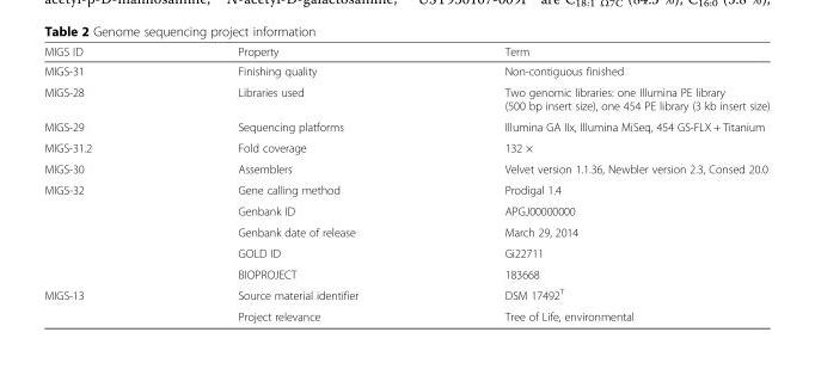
<table><thead><tr><td>MIGS ID</td><td>Property</td><td>Term</td></tr></thead><tbody><tr><td>MIGS-31</td><td>Finishing quality</td><td>Non-contiguous finished</td></tr><tr><td>MIGS-28</td><td>Libraries used</td><td>Two genomic libraries: one Illumina PE library (500 bp insert size), one 454 PE library (3 kb insert size)</td></tr><tr><td>MIGS-29</td><td>Sequencing platforms</td><td>Illumina GA IIx, Illumina MiSeq, 454 GS-FLX + Titanium</td></tr><tr><td>MIGS-31.2</td><td>Fold coverage</td><td>132 ×</td></tr><tr><td>MIGS-30</td><td>Assemblers</td><td>Velvet version 1.1.36, Newbler version 2.3, Consed 20.0</td></tr><tr><td rowspan="5">MIGS-32</td><td>Gene calling method</td><td>Prodigal 1.4</td></tr><tr><td>Genbank ID</td><td>APGJ00000000</td></tr><tr><td>Genbank date of release</td><td>March 29, 2014</td></tr><tr><td>GOLD ID</td><td>Gi22711</td></tr><tr><td>BIOPROJECT</td><td>183668</td></tr><tr><td rowspan="2">MIGS-13</td><td>Source material identifier</td><td>DSM 17492<sup>T</sup></td></tr><tr><td>Project relevance</td><td>Tree of Life, environmental</td></tr></tbody></table>